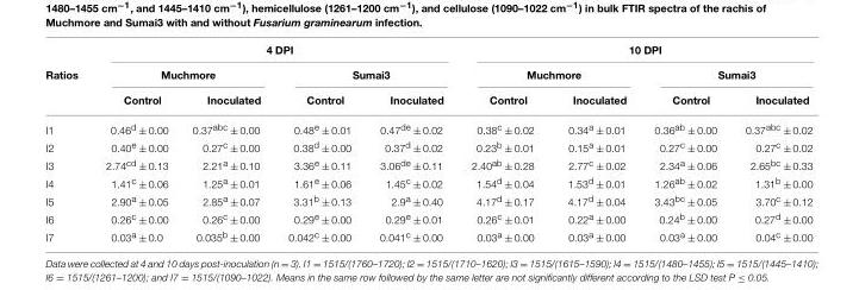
<table><thead><tr><td rowspan="3">Ratios</td><td colspan="4">4 DPI</td><td colspan="4">10 DPI</td></tr><tr><td colspan="2">Muchmore</td><td colspan="2">Sumai3</td><td colspan="2">Muchmore</td><td colspan="2">Sumai3</td></tr><tr><td>Control</td><td>Inoculated</td><td>Control</td><td>Inoculated</td><td>Control</td><td>Inoculated</td><td>Control</td><td>Inoculated</td></tr></thead><tbody><tr><td>I1</td><td>0.46<sup>d</sup> ± 0.00</td><td>0.37<sup>abc</sup> ± 0.00</td><td>0.48<sup>e</sup> ± 0.01</td><td>0.47<sup>de</sup> ± 0.02</td><td>0.38<sup>c</sup> ± 0.02</td><td>0.34<sup>a</sup> ± 0.01</td><td>0.36<sup>ab</sup> ± 0.00</td><td>0.37<sup>abc</sup> ± 0.02</td></tr><tr><td>I2</td><td>0.40<sup>e</sup> ± 0.00</td><td>0.27<sup>c</sup> ± 0.00</td><td>0.38<sup>d</sup> ± 0.00</td><td>0.37<sup>d</sup> ± 0.02</td><td>0.23<sup>b</sup> ± 0.01</td><td>0.15<sup>a</sup> ± 0.01</td><td>0.27<sup>c</sup> ± 0.00</td><td>0.27<sup>c</sup> ± 0.02</td></tr><tr><td>I3</td><td>2.74<sup>cd</sup> ± 0.13</td><td>2.21<sup>a</sup> ± 0.10</td><td>3.36<sup>e</sup> ± 0.11</td><td>3.06<sup>de</sup> ± 0.11</td><td>2.40<sup>ab</sup> ± 0.28</td><td>2.77<sup>c</sup> ± 0.02</td><td>2.34<sup>a</sup> ± 0.06</td><td>2.65<sup>bc</sup> ± 0.33</td></tr><tr><td>I4</td><td>1.41<sup>c</sup> ± 0.06</td><td>1.25<sup>a</sup> ± 0.01</td><td>1.61<sup>e</sup> ± 0.06</td><td>1.45<sup>c</sup> ± 0.02</td><td>1.54<sup>d</sup> ± 0.04</td><td>1.53<sup>d</sup> ± 0.01</td><td>1.26<sup>ab</sup> ± 0.02</td><td>1.31<sup>b</sup> ± 0.00</td></tr><tr><td>I5</td><td>2.90<sup>a</sup> ± 0.05</td><td>2.85<sup>a</sup> ± 0.07</td><td>3.31<sup>b</sup> ± 0.13</td><td>2.9<sup>a</sup> ± 0.40</td><td>4.17<sup>d</sup> ± 0.17</td><td>4.17<sup>d</sup> ± 0.04</td><td>3.43<sup>bc</sup> ± 0.05</td><td>3.70<sup>c</sup> ± 0.12</td></tr><tr><td>I6</td><td>0.26<sup>c</sup> ± 0.00</td><td>0.26<sup>c</sup> ± 0.00</td><td>0.29<sup>e</sup> ± 0.00</td><td>0.29<sup>e</sup> ± 0.01</td><td>0.26<sup>c</sup> ± 0.01</td><td>0.22<sup>a</sup> ± 0.00</td><td>0.24<sup>b</sup> ± 0.00</td><td>0.27<sup>d</sup> ± 0.00</td></tr><tr><td>I7</td><td>0.03<sup>a</sup> ± 0.0</td><td>0.035<sup>b</sup> ± 0.00</td><td>0.042<sup>c</sup> ± 0.00</td><td>0.041<sup>c</sup> ± 0.00</td><td>0.03<sup>a</sup> ± 0.00</td><td>0.03<sup>a</sup> ± 0.00</td><td>0.03<sup>a</sup> ± 0.00</td><td>0.04<sup>c</sup> ± 0.00</td></tr></tbody></table>